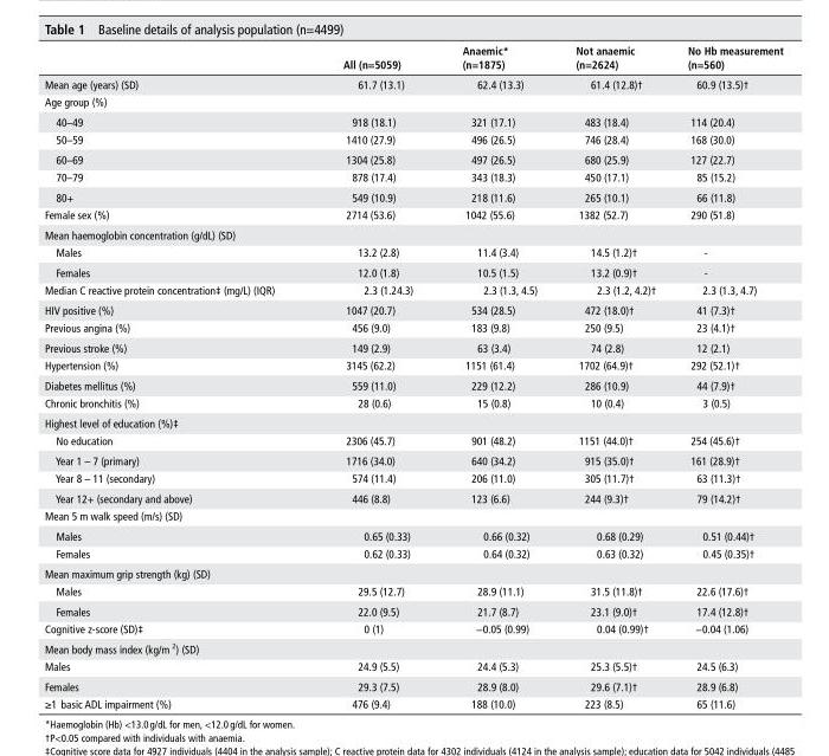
<table><thead><tr><td></td><td>All (n=5059)</td><td>Anaemic* (n=1875)</td><td>not anaemic (n=2624)</td><td>no hb measurement (n=560)</td></tr></thead><tbody><tr><td>Mean age (years) (SD)</td><td>61.7 (13.1)</td><td>62.4 (13.3)</td><td>61.4 (12.8)†</td><td>60.9 (13.5)†</td></tr><tr><td colspan="5">Age group (%)</td></tr><tr><td>40–49</td><td>918 (18.1)</td><td>321 (17.1)</td><td>483 (18.4)</td><td>114 (20.4)</td></tr><tr><td>50–59</td><td>1410 (27.9)</td><td>496 (26.5)</td><td>746 (28.4)</td><td>168 (30.0)</td></tr><tr><td>60–69</td><td>1304 (25.8)</td><td>497 (26.5)</td><td>680 (25.9)</td><td>127 (22.7)</td></tr><tr><td>70–79</td><td>878 (17.4)</td><td>343 (18.3)</td><td>450 (17.1)</td><td>85 (15.2)</td></tr><tr><td>80+</td><td>549 (10.9)</td><td>218 (11.6)</td><td>265 (10.1)</td><td>66 (11.8)</td></tr><tr><td>Female sex (%)</td><td>2714 (53.6)</td><td>1042 (55.6)</td><td>1382 (52.7)</td><td>290 (51.8)</td></tr><tr><td colspan="5">Mean haemoglobin concentration (g/dL) (SD)</td></tr><tr><td>Males</td><td>13.2 (2.8)</td><td>11.4 (3.4)</td><td>14.5 (1.2)†</td><td>-</td></tr><tr><td>Females</td><td>12.0 (1.8)</td><td>10.5 (1.5)</td><td>13.2 (0.9)†</td><td>-</td></tr><tr><td>Median C reactive protein concentration‡ (mg/L) (IQR)</td><td>2.3 (1.24.3)</td><td>2.3 (1.3, 4.5)</td><td>2.3 (1.2, 4.2)†</td><td>2.3 (1.3, 4.7)</td></tr><tr><td>HIV positive (%)</td><td>1047 (20.7)</td><td>534 (28.5)</td><td>472 (18.0)†</td><td>41 (7.3)†</td></tr><tr><td>Previous angina (%)</td><td>456 (9.0)</td><td>183 (9.8)</td><td>250 (9.5)</td><td>23 (4.1)†</td></tr><tr><td>Previous stroke (%)</td><td>149 (2.9)</td><td>63 (3.4)</td><td>74 (2.8)</td><td>12 (2.1)</td></tr><tr><td>Hypertension (%)</td><td>3145 (62.2)</td><td>1151 (61.4)</td><td>1702 (64.9)†</td><td>292 (52.1)†</td></tr><tr><td>Diabetes mellitus (%)</td><td>559 (11.0)</td><td>229 (12.2)</td><td>286 (10.9)</td><td>44 (7.9)†</td></tr><tr><td>Chronic bronchitis (%)</td><td>28 (0.6)</td><td>15 (0.8)</td><td>10 (0.4)</td><td>3 (0.5)</td></tr><tr><td colspan="5">Highest level of education (%)‡</td></tr><tr><td>No education</td><td>2306 (45.7)</td><td>901 (48.2)</td><td>1151 (44.0)†</td><td>254 (45.6)†</td></tr><tr><td>Year 1 – 7 (primary)</td><td>1716 (34.0)</td><td>640 (34.2)</td><td>915 (35.0)†</td><td>161 (28.9)†</td></tr><tr><td>Year 8 – 11 (secondary)</td><td>574 (11.4)</td><td>206 (11.0)</td><td>305 (11.7)†</td><td>63 (11.3)†</td></tr><tr><td>Year 12+ (secondary and above)</td><td>446 (8.8)</td><td>123 (6.6)</td><td>244 (9.3)†</td><td>79 (14.2)†</td></tr><tr><td colspan="5">Mean 5 m walk speed (m/s) (SD)</td></tr><tr><td>Males</td><td>0.65 (0.33)</td><td>0.66 (0.32)</td><td>0.68 (0.29)</td><td>0.51 (0.44)†</td></tr><tr><td>Females</td><td>0.62 (0.33)</td><td>0.64 (0.32)</td><td>0.63 (0.32)</td><td>0.45 (0.35)†</td></tr><tr><td colspan="5">Mean maximum grip strength (kg) (SD)</td></tr><tr><td>Males</td><td>29.5 (12.7)</td><td>28.9 (11.1)</td><td>31.5 (11.8)†</td><td>22.6 (17.6)†</td></tr><tr><td>Females</td><td>22.0 (9.5)</td><td>21.7 (8.7)</td><td>23.1 (9.0)†</td><td>17.4 (12.8)†</td></tr><tr><td>Cognitive z-score (SD)‡</td><td>0 (1)</td><td>−0.05 (0.99)</td><td>0.04 (0.99)†</td><td>−0.04 (1.06)</td></tr><tr><td colspan="5">Mean body mass index (kg/m <sup>2</sup>) (SD)</td></tr><tr><td>Males</td><td>24.9 (5.5)</td><td>24.4 (5.3)</td><td>25.3 (5.5)†</td><td>24.5 (6.3)</td></tr><tr><td>Females</td><td>29.3 (7.5)</td><td>28.9 (8.0)</td><td>29.6 (7.1)†</td><td>28.9 (6.8)</td></tr><tr><td>≥1 basic ADL impairment (%)</td><td>476 (9.4)</td><td>188 (10.0)</td><td>223 (8.5)</td><td>65 (11.6)</td></tr></tbody></table>